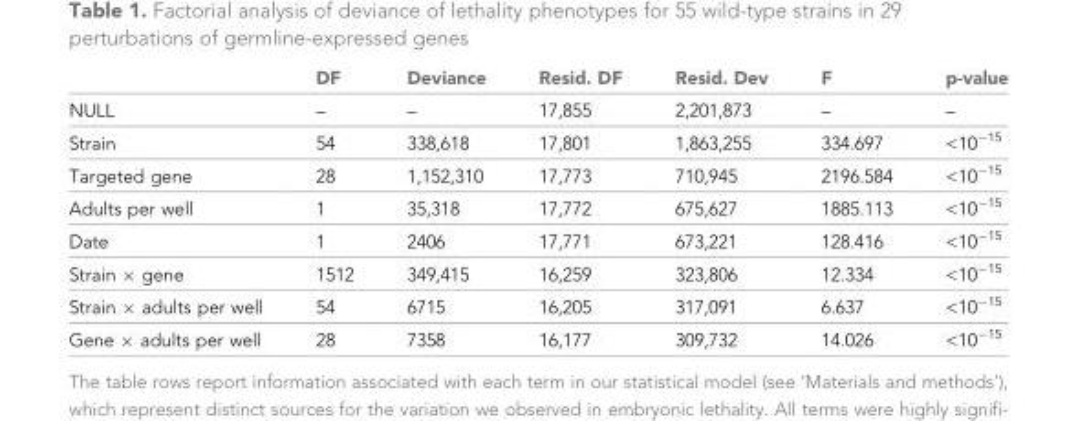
<table><thead><tr><td></td><td>DF</td><td>Deviance</td><td>Resid. DF</td><td>Resid. Dev</td><td>F</td><td>p-value</td></tr></thead><tbody><tr><td>NULL</td><td>–</td><td>–</td><td>17,855</td><td>2,201,873</td><td>–</td><td>–</td></tr><tr><td>Strain</td><td>54</td><td>338,618</td><td>17,801</td><td>1,863,255</td><td>334.697</td><td>&lt;10<sup>−15</sup></td></tr><tr><td>Targeted gene</td><td>28</td><td>1,152,310</td><td>17,773</td><td>710,945</td><td>2196.584</td><td>&lt;10<sup>−15</sup></td></tr><tr><td>Adults per well</td><td>1</td><td>35,318</td><td>17,772</td><td>675,627</td><td>1885.113</td><td>&lt;10<sup>−15</sup></td></tr><tr><td>Date</td><td>1</td><td>2406</td><td>17,771</td><td>673,221</td><td>128.416</td><td>&lt;10<sup>−15</sup></td></tr><tr><td>Strain × gene</td><td>1512</td><td>349,415</td><td>16,259</td><td>323,806</td><td>12.334</td><td>&lt;10<sup>−15</sup></td></tr><tr><td>Strain × adults per well</td><td>54</td><td>6715</td><td>16,205</td><td>317,091</td><td>6.637</td><td>&lt;10<sup>−15</sup></td></tr><tr><td>Gene × adults per well</td><td>28</td><td>7358</td><td>16,177</td><td>309,732</td><td>14.026</td><td>&lt;10<sup>−15</sup></td></tr></tbody></table>